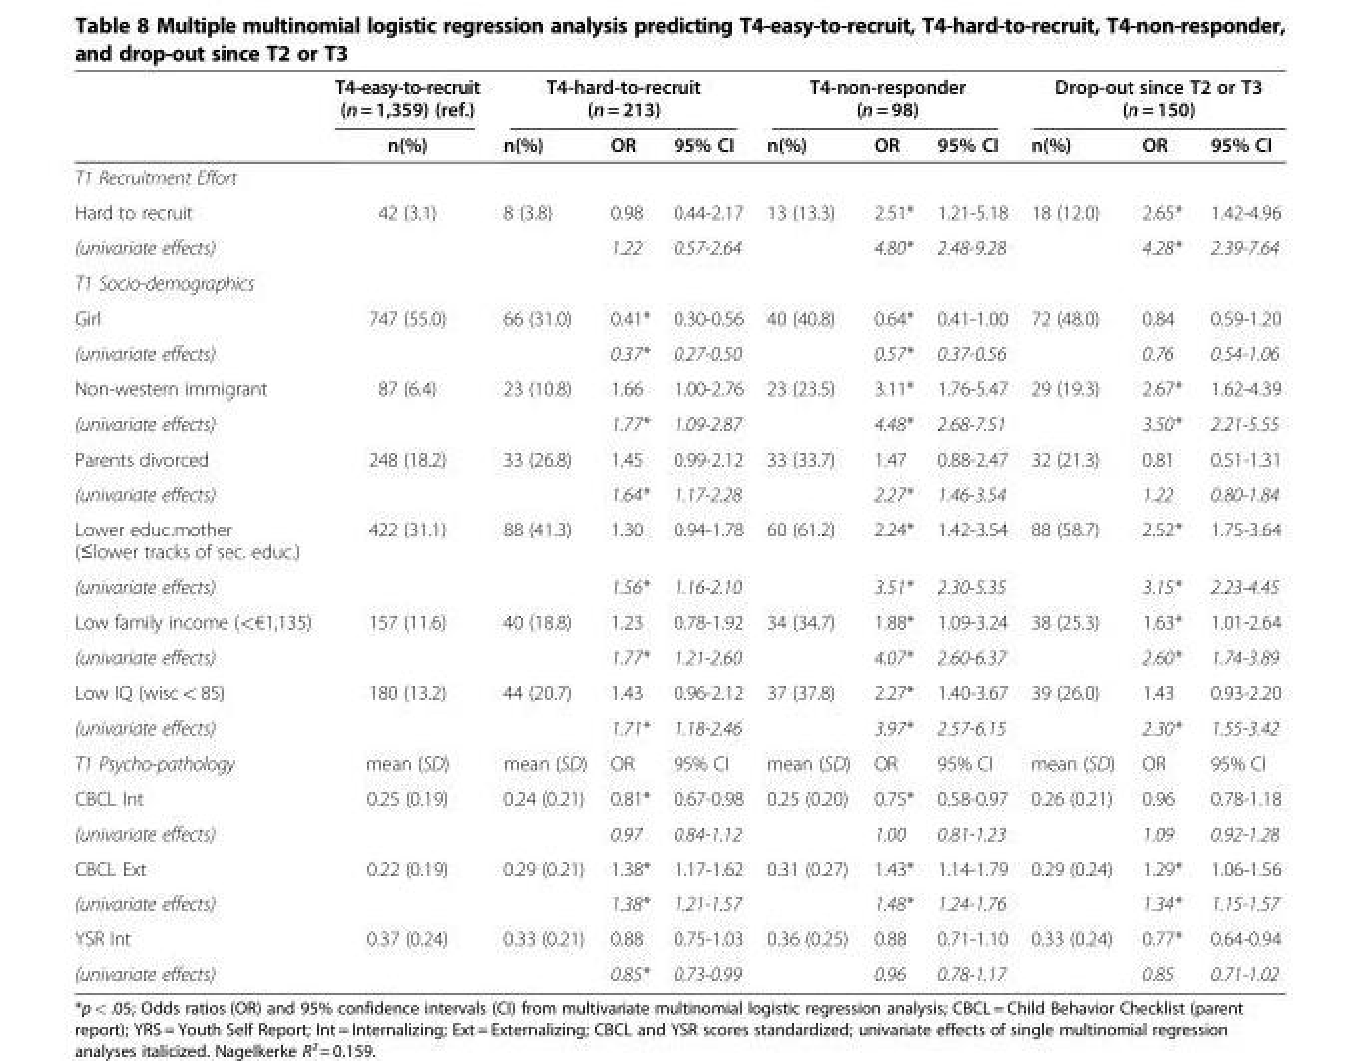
<table><thead><tr><td rowspan="2"></td><td rowspan="2">T4-easy-to-recruit (n = 1,359) (ref.) n(%)</td><td colspan="3">T4-hard-to-recruit (n = 213)</td><td colspan="3">T4-non-responder (n = 98)</td><td colspan="3">Drop-out since T2 or T3 (n = 150)</td></tr><tr><td>n(%)</td><td>OR</td><td>95% CI</td><td>n(%)</td><td>OR</td><td>95% CI</td><td>n(%)</td><td>OR</td><td>95% CI</td></tr></thead><tbody><tr><td colspan="11">T1 Recruitment Effort</td></tr><tr><td>Hard to recruit</td><td>42 (3.1)</td><td>8 (3.8)</td><td>0.98</td><td>0.44-2.17</td><td>13 (13.3)</td><td>2.51*</td><td>1.21-5.18</td><td>18 (12.0)</td><td>2.65*</td><td>1.42-4.96</td></tr><tr><td>(univariate effects)</td><td></td><td></td><td>1.22</td><td>0.57-2.64</td><td></td><td>4.80*</td><td>2.48-9.28</td><td></td><td>4.28*</td><td>2.39-7.64</td></tr><tr><td colspan="11">T1 Socio-demographics</td></tr><tr><td>Girl</td><td>747 (55.0)</td><td>66 (31.0)</td><td>0.41*</td><td>0.30-0.56</td><td>40 (40.8)</td><td>0.64*</td><td>0.41-1.00</td><td>72 (48.0)</td><td>0.84</td><td>0.59-1.20</td></tr><tr><td>(univariate effects)</td><td></td><td></td><td>0.37*</td><td>0.27-0.50</td><td></td><td>0.57*</td><td>0.37-0.56</td><td></td><td>0.76</td><td>0.54-1.06</td></tr><tr><td>Non-western immigrant</td><td>87 (6.4)</td><td>23 (10.8)</td><td>1.66</td><td>1.00-2.76</td><td>23 (23.5)</td><td>3.11*</td><td>1.76-5.47</td><td>29 (19.3)</td><td>2.67*</td><td>1.62-4.39</td></tr><tr><td>(univariate effects)</td><td></td><td></td><td>1.77*</td><td>1.09-2.87</td><td></td><td>4.48*</td><td>2.68-7.51</td><td></td><td>3.50*</td><td>2.21-5.55</td></tr><tr><td>Parents divorced</td><td>248 (18.2)</td><td>33 (26.8)</td><td>1.45</td><td>0.99-2.12</td><td>33 (33.7)</td><td>1.47</td><td>0.88-2.47</td><td>32 (21.3)</td><td>0.81</td><td>0.51-1.31</td></tr><tr><td>(univariate effects)</td><td></td><td></td><td>1.64*</td><td>1.17-2.28</td><td></td><td>2.27*</td><td>1.46-3.54</td><td></td><td>1.22</td><td>0.80-1.84</td></tr><tr><td>Lower educ.mother (≤lower tracks of sec. educ.)</td><td>422 (31.1)</td><td>88 (41.3)</td><td>1.30</td><td>0.94-1.78</td><td>60 (61.2)</td><td>2.24*</td><td>1.42-3.54</td><td>88 (58.7)</td><td>2.52*</td><td>1.75-3.64</td></tr><tr><td>(univariate effects)</td><td></td><td></td><td>1.56*</td><td>1.16-2.10</td><td></td><td>3.51*</td><td>2.30-5.35</td><td></td><td>3.15*</td><td>2.23-4.45</td></tr><tr><td>Low family income (&lt;€1,135)</td><td>157 (11.6)</td><td>40 (18.8)</td><td>1.23</td><td>0.78-1.92</td><td>34 (34.7)</td><td>1.88*</td><td>1.09-3.24</td><td>38 (25.3)</td><td>1.63*</td><td>1.01-2.64</td></tr><tr><td>(univariate effects)</td><td></td><td></td><td>1.77*</td><td>1.21-2.60</td><td></td><td>4.07*</td><td>2.60-6.37</td><td></td><td>2.60*</td><td>1.74-3.89</td></tr><tr><td>Low IQ (wisc &lt; 85)</td><td>180 (13.2)</td><td>44 (20.7)</td><td>1.43</td><td>0.96-2.12</td><td>37 (37.8)</td><td>2.27*</td><td>1.40-3.67</td><td>39 (26.0)</td><td>1.43</td><td>0.93-2.20</td></tr><tr><td>(univariate effects)</td><td></td><td></td><td>1.71*</td><td>1.18-2.46</td><td></td><td>3.97*</td><td>2.57-6.15</td><td></td><td>2.30*</td><td>1.55-3.42</td></tr><tr><td>T1 Psycho-pathology</td><td>mean (SD)</td><td>mean (SD)</td><td>OR</td><td>95% CI</td><td>mean (SD)</td><td>OR</td><td>95% CI</td><td>mean (SD)</td><td>OR</td><td>95% CI</td></tr><tr><td>CBCL Int</td><td>0.25 (0.19)</td><td>0.24 (0.21)</td><td>0.81*</td><td>0.67-0.98</td><td>0.25 (0.20)</td><td>0.75*</td><td>0.58-0.97</td><td>0.26 (0.21)</td><td>0.96</td><td>0.78-1.18</td></tr><tr><td>(univariate effects)</td><td></td><td></td><td>0.97</td><td>0.84-1.12</td><td></td><td>1.00</td><td>0.81-1.23</td><td></td><td>1.09</td><td>0.92-1.28</td></tr><tr><td>CBCL Ext</td><td>0.22 (0.19)</td><td>0.29 (0.21)</td><td>1.38*</td><td>1.17-1.62</td><td>0.31 (0.27)</td><td>1.43*</td><td>1.14-1.79</td><td>0.29 (0.24)</td><td>1.29*</td><td>1.06-1.56</td></tr><tr><td>(univariate effects)</td><td></td><td></td><td>1.38*</td><td>1.21-1.57</td><td></td><td>1.48*</td><td>1.24-1.76</td><td></td><td>1.34*</td><td>1.15-1.57</td></tr><tr><td>YSR Int</td><td>0.37 (0.24)</td><td>0.33 (0.21)</td><td>0.88</td><td>0.75-1.03</td><td>0.36 (0.25)</td><td>0.88</td><td>0.71-1.10</td><td>0.33 (0.24)</td><td>0.77*</td><td>0.64-0.94</td></tr><tr><td>(univariate effects)</td><td></td><td></td><td>0.85*</td><td>0.73-0.99</td><td></td><td>0.96</td><td>0.78-1.17</td><td></td><td>0.85</td><td>0.71-1.02</td></tr></tbody></table>